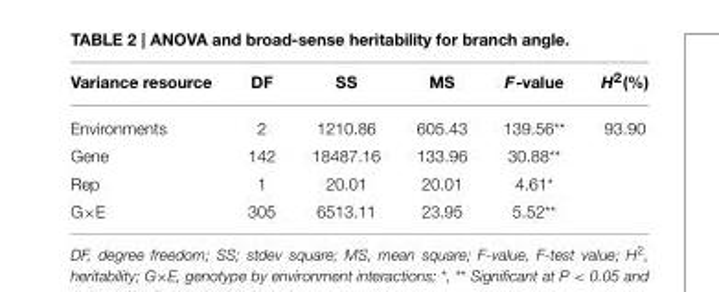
<table><thead><tr><td>Variance resource</td><td>DF</td><td>SS</td><td>MS</td><td>F-value</td><td>H<sup>2</sup>(%)</td></tr></thead><tbody><tr><td>Environments</td><td>2</td><td>1210.86</td><td>605.43</td><td>139.56**</td><td>93.90</td></tr><tr><td>Gene</td><td>142</td><td>18487.16</td><td>133.96</td><td>30.88**</td><td></td></tr><tr><td>Rep</td><td>1</td><td>20.01</td><td>20.01</td><td>4.61*</td><td></td></tr><tr><td>G×E</td><td>305</td><td>6513.11</td><td>23.95</td><td>5.52**</td><td></td></tr></tbody></table>